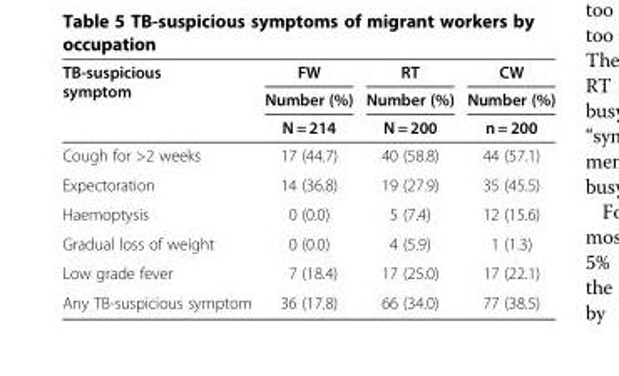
<table><thead><tr><td rowspan="3">TB-suspicious symptom</td><td rowspan="3">FW Number (%) N = 214</td><td rowspan="3">RT Number (%) N = 200</td><td rowspan="3">CW Number (%) n = 200</td></tr><tr></tr><tr></tr></thead><tbody><tr><td>Cough for &gt;2 weeks</td><td>17 (44.7)</td><td>40 (58.8)</td><td>44 (57.1)</td></tr><tr><td>Expectoration</td><td>14 (36.8)</td><td>19 (27.9)</td><td>35 (45.5)</td></tr><tr><td>Haemoptysis</td><td>0 (0.0)</td><td>5 (7.4)</td><td>12 (15.6)</td></tr><tr><td>Gradual loss of weight</td><td>0 (0.0)</td><td>4 (5.9)</td><td>1 (1.3)</td></tr><tr><td>Low grade fever</td><td>7 (18.4)</td><td>17 (25.0)</td><td>17 (22.1)</td></tr><tr><td>Any TB-suspicious symptom</td><td>36 (17.8)</td><td>66 (34.0)</td><td>77 (38.5)</td></tr></tbody></table>